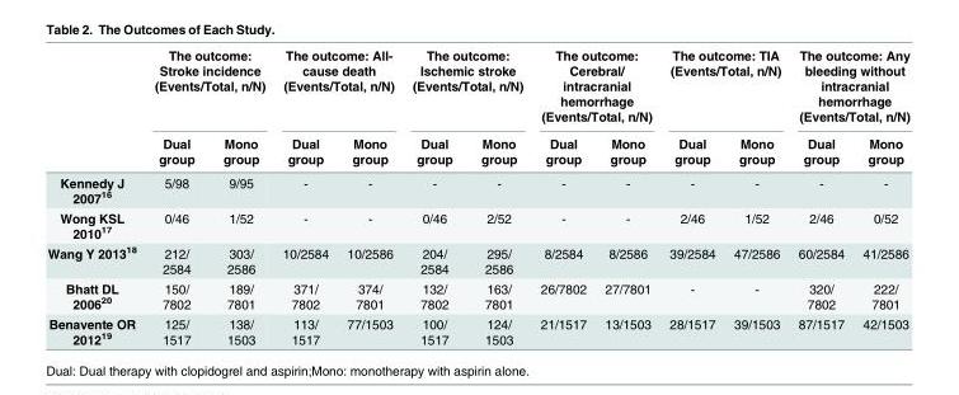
<table><thead><tr><td rowspan="2"></td><td colspan="2">The outcome: Stroke incidence (Events/Total, n/N)</td><td colspan="2">The outcome: All- cause death (Events/Total, n/N)</td><td colspan="2">The outcome: Ischemic stroke (Events/Total, n/N)</td><td colspan="2">The outcome: Cerebral/ intracranial hemorrhage (Events/Total, n/N)</td><td colspan="2">The outcome: TIA (Events/Total, n/N)</td><td colspan="2">The outcome: Any bleeding without intracranial hemorrhage (Events/Total, n/N)</td></tr><tr><td>Dual group</td><td>Mono group</td><td>Dual group</td><td>Mono group</td><td>Dual group</td><td>Mono group</td><td>Dual group</td><td>Mono group</td><td>Dual group</td><td>Mono group</td><td>Dual group</td><td>Mono group</td></tr></thead><tbody><tr><td>Kennedy J 2007<sup>16</sup></td><td>5/98</td><td>9/95</td><td>-</td><td>-</td><td>-</td><td>-</td><td>-</td><td>-</td><td>-</td><td>-</td><td>-</td><td>-</td></tr><tr><td>Wong KSL 2010<sup>17</sup></td><td>0/46</td><td>1/52</td><td>-</td><td>-</td><td>0/46</td><td>2/52</td><td>-</td><td>-</td><td>2/46</td><td>1/52</td><td>2/46</td><td>0/52</td></tr><tr><td>Wang Y 2013<sup>18</sup></td><td>212/ 2584</td><td>303/ 2586</td><td>10/2584</td><td>10/2586</td><td>204/ 2584</td><td>295/ 2586</td><td>8/2584</td><td>8/2586</td><td>39/2584</td><td>47/2586</td><td>60/2584</td><td>41/2586</td></tr><tr><td>Bhatt DL 2006<sup>20</sup></td><td>150/ 7802</td><td>189/ 7801</td><td>371/ 7802</td><td>374/ 7801</td><td>132/ 7802</td><td>163/ 7801</td><td>26/7802</td><td>27/7801</td><td>-</td><td>-</td><td>320/ 7802</td><td>222/ 7801</td></tr><tr><td>Benavente OR 2012<sup>19</sup></td><td>125/ 1517</td><td>138/ 1503</td><td>113/ 1517</td><td>77/1503</td><td>100/ 1517</td><td>124/ 1503</td><td>21/1517</td><td>13/1503</td><td>28/1517</td><td>39/1503</td><td>87/1517</td><td>42/1503</td></tr></tbody></table>